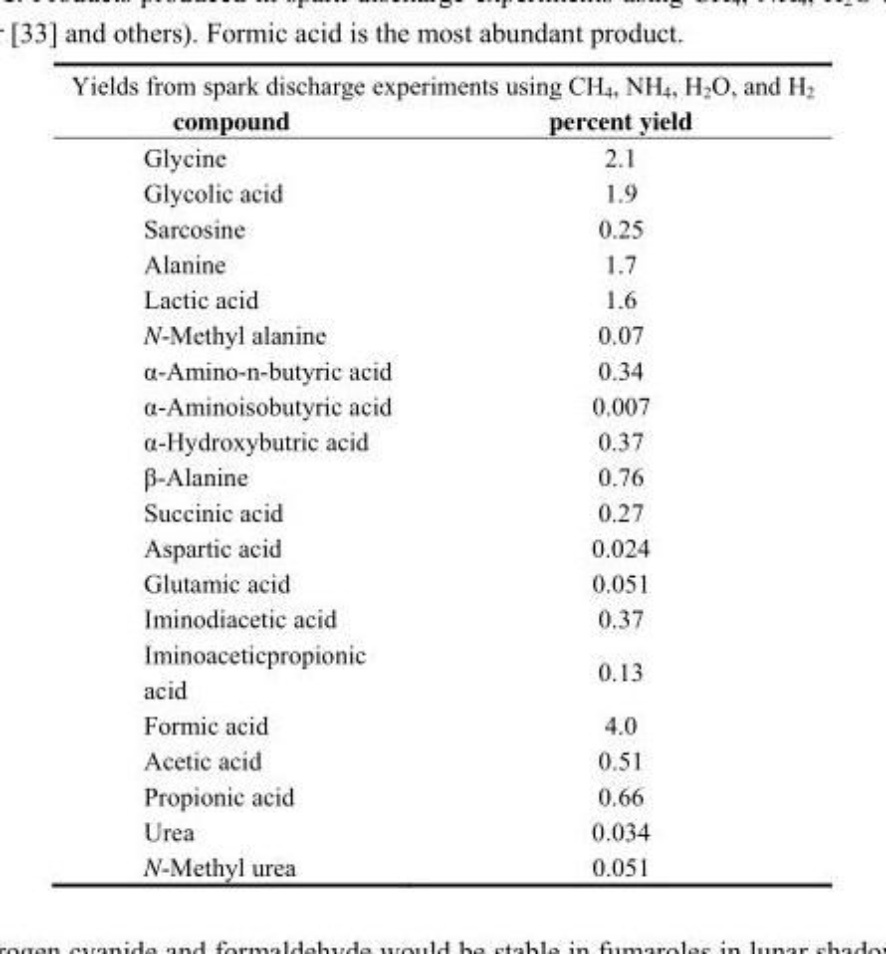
<table><thead><tr><td colspan="2">Yields from spark discharge experiments using CH<sub>4</sub>, NH<sub>4</sub>, H<sub>2</sub>O, and H<sub>2</sub></td></tr><tr><td>compound</td><td>percent yield</td></tr></thead><tbody><tr><td>Glycine</td><td>2.1</td></tr><tr><td>Glycolic acid</td><td>1.9</td></tr><tr><td>Sarcosine</td><td>0.25</td></tr><tr><td>Alanine</td><td>1.7</td></tr><tr><td>Lactic acid</td><td>1.6</td></tr><tr><td>N-Methyl alanine</td><td>0.07</td></tr><tr><td>α-Amino-n-butyric acid</td><td>0.34</td></tr><tr><td>α-Aminoisobutyric acid</td><td>0.007</td></tr><tr><td>α-Hydroxybutric acid</td><td>0.37</td></tr><tr><td>β-Alanine</td><td>0.76</td></tr><tr><td>Succinic acid</td><td>0.27</td></tr><tr><td>Aspartic acid</td><td>0.024</td></tr><tr><td>Glutamic acid</td><td>0.051</td></tr><tr><td>Iminodiacetic acid</td><td>0.37</td></tr><tr><td>Iminoaceticpropionic acid</td><td>0.13</td></tr><tr><td>Formic acid</td><td>4.0</td></tr><tr><td>Acetic acid</td><td>0.51</td></tr><tr><td>Propionic acid</td><td>0.66</td></tr><tr><td>Urea</td><td>0.034</td></tr><tr><td>N-Methyl urea</td><td>0.051</td></tr></tbody></table>